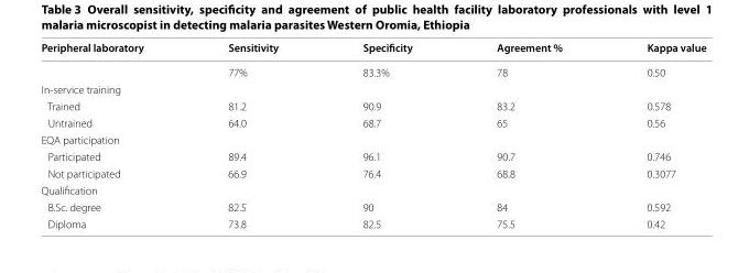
<table><thead><tr><td>Peripheral laboratory</td><td>Sensitivity</td><td>Specificity</td><td>Agreement %</td><td>Kappa value</td></tr></thead><tbody><tr><td></td><td>77%</td><td>83.3%</td><td>78</td><td>0.50</td></tr><tr><td colspan="5">In-service training</td></tr><tr><td>Trained</td><td>81.2</td><td>90.9</td><td>83.2</td><td>0.578</td></tr><tr><td>Untrained</td><td>64.0</td><td>68.7</td><td>65</td><td>0.56</td></tr><tr><td colspan="5">EQA participation</td></tr><tr><td>Participated</td><td>89.4</td><td>96.1</td><td>90.7</td><td>0.746</td></tr><tr><td>Not participated</td><td>66.9</td><td>76.4</td><td>68.8</td><td>0.3077</td></tr><tr><td colspan="5">Qualification</td></tr><tr><td>B.Sc. degree</td><td>82.5</td><td>90</td><td>84</td><td>0.592</td></tr><tr><td>Diploma</td><td>73.8</td><td>82.5</td><td>75.5</td><td>0.42</td></tr></tbody></table>